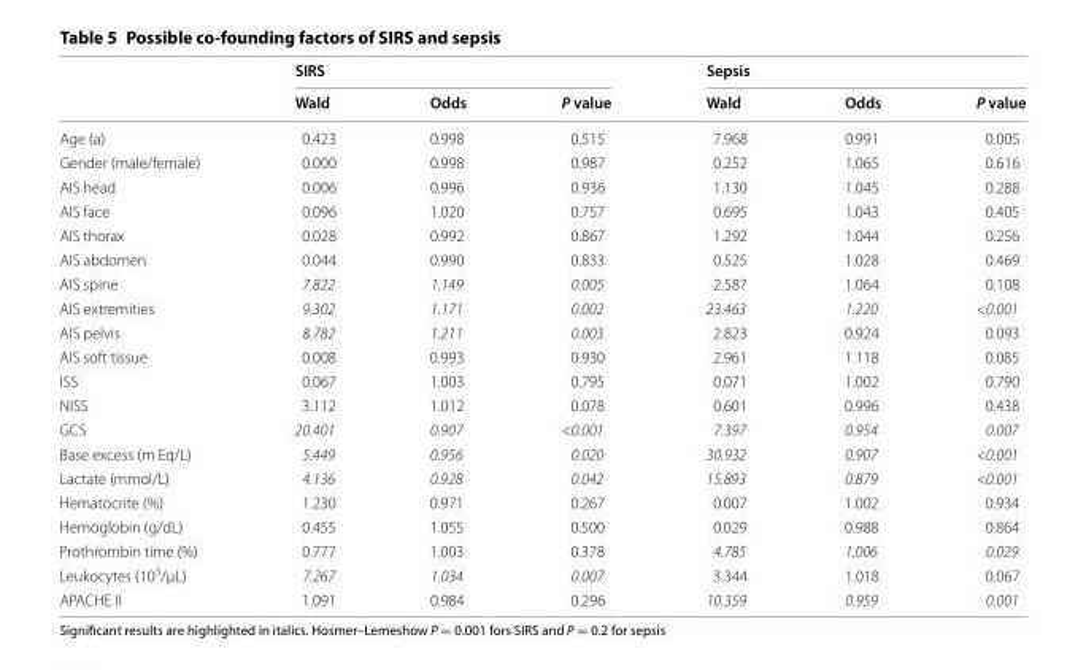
<table><thead><tr><td rowspan="2"></td><td colspan="3">SIRS</td><td colspan="3">Sepsis</td></tr><tr><td>Wald</td><td>Odds</td><td>P value</td><td>Wald</td><td>Odds</td><td>P value</td></tr></thead><tbody><tr><td>Age (a)</td><td>0.423</td><td>0.998</td><td>0.515</td><td>7.968</td><td>0.991</td><td>0.005</td></tr><tr><td>Gender (male/female)</td><td>0.000</td><td>0.998</td><td>0.987</td><td>0.252</td><td>1.065</td><td>0.616</td></tr><tr><td>AIS head</td><td>0.006</td><td>0.996</td><td>0.936</td><td>1.130</td><td>1.045</td><td>0.288</td></tr><tr><td>AIS face</td><td>0.096</td><td>1.020</td><td>0.757</td><td>0.695</td><td>1.043</td><td>0.405</td></tr><tr><td>AIS thorax</td><td>0.028</td><td>0.992</td><td>0.867</td><td>1.292</td><td>1.044</td><td>0.256</td></tr><tr><td>AIS abdomen</td><td>0.044</td><td>0.990</td><td>0.833</td><td>0.525</td><td>1.028</td><td>0.469</td></tr><tr><td>AIS spine</td><td>7.822</td><td>1.149</td><td>0.005</td><td>2.587</td><td>1.064</td><td>0.108</td></tr><tr><td>AIS extremities</td><td>9.302</td><td>1.171</td><td>0.002</td><td>23.463</td><td>1.220</td><td>&lt;0.001</td></tr><tr><td>AIS pelvis</td><td>8.782</td><td>1.211</td><td>0.003</td><td>2.823</td><td>0.924</td><td>0.093</td></tr><tr><td>AIS soft tissue</td><td>0.008</td><td>0.993</td><td>0.930</td><td>2.961</td><td>1.118</td><td>0.085</td></tr><tr><td>ISS</td><td>0.067</td><td>1.003</td><td>0.795</td><td>0.071</td><td>1.002</td><td>0.790</td></tr><tr><td>NISS</td><td>3.112</td><td>1.012</td><td>0.078</td><td>0.601</td><td>0.996</td><td>0.438</td></tr><tr><td>GCS</td><td>20.401</td><td>0.907</td><td>&lt;0.001</td><td>7.397</td><td>0.954</td><td>0.007</td></tr><tr><td>Base excess (m Eq/L)</td><td>5.449</td><td>0.956</td><td>0.020</td><td>30.932</td><td>0.907</td><td>&lt;0.001</td></tr><tr><td>Lactate (mmol/L)</td><td>4.136</td><td>0.928</td><td>0.042</td><td>15.893</td><td>0.879</td><td>&lt;0.001</td></tr><tr><td>Hematocrite (%)</td><td>1.230</td><td>0.971</td><td>0.267</td><td>0.007</td><td>1.002</td><td>0.934</td></tr><tr><td>Hemoglobin (g/dL)</td><td>0.455</td><td>1.055</td><td>0.500</td><td>0.029</td><td>0.988</td><td>0.864</td></tr><tr><td>Prothrombin time (%)</td><td>0.777</td><td>1.003</td><td>0.378</td><td>4.785</td><td>1.006</td><td>0.029</td></tr><tr><td>Leukocytes (10<sup>3</sup>/μL)</td><td>7.267</td><td>1.034</td><td>0.007</td><td>3.344</td><td>1.018</td><td>0.067</td></tr><tr><td>APACHE II</td><td>1.091</td><td>0.984</td><td>0.296</td><td>10.359</td><td>0.959</td><td>0.001</td></tr></tbody></table>